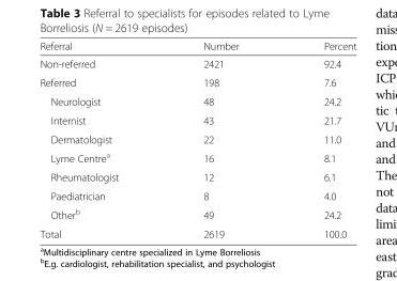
<table><thead><tr><td>Referral</td><td>Number</td><td>Percent</td></tr></thead><tbody><tr><td>Non-referred</td><td>2421</td><td>92.4</td></tr><tr><td>Referred</td><td>198</td><td>7.6</td></tr><tr><td>Neurologist</td><td>48</td><td>24.2</td></tr><tr><td>Internist</td><td>43</td><td>21.7</td></tr><tr><td>Dermatologist</td><td>22</td><td>11.0</td></tr><tr><td>Lyme Centre<sup>a</sup></td><td>16</td><td>8.1</td></tr><tr><td>Rheumatologist</td><td>12</td><td>6.1</td></tr><tr><td>Paediatrician</td><td>8</td><td>4.0</td></tr><tr><td>Other<sup>b</sup></td><td>49</td><td>24.2</td></tr><tr><td>Total</td><td>2619</td><td>100.0</td></tr></tbody></table>